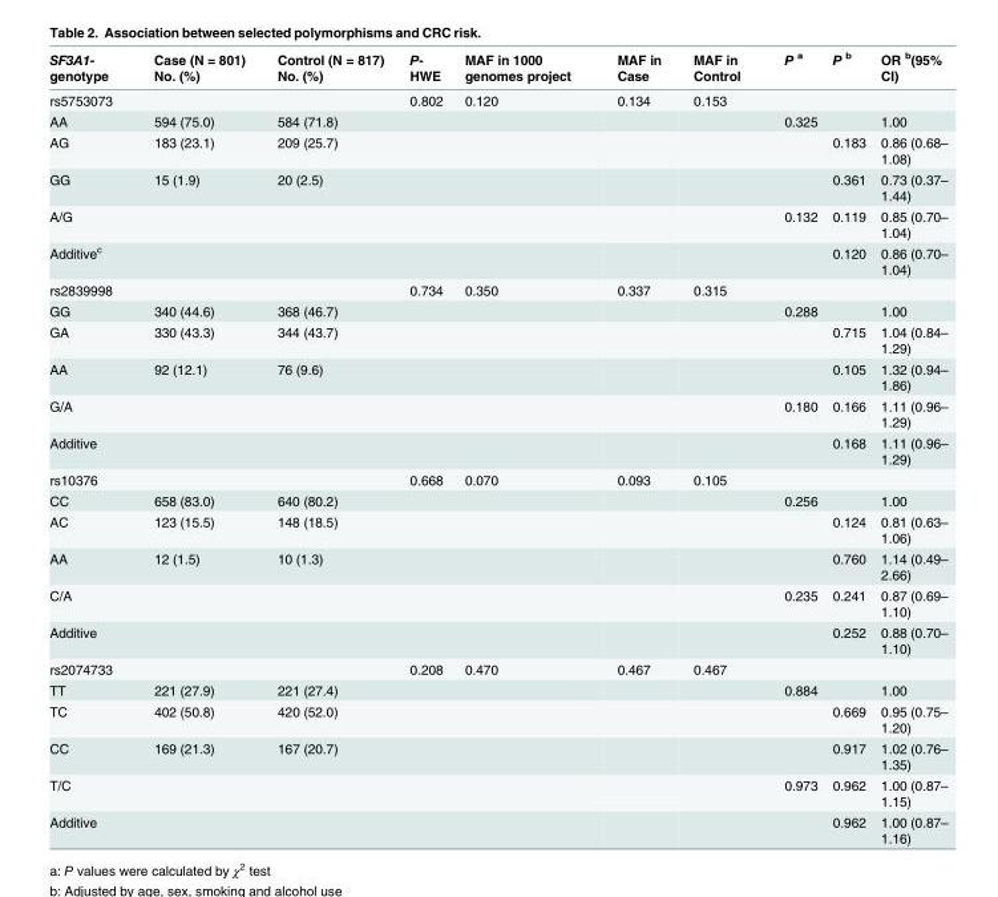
<table><thead><tr><td>SF3A1- genotype</td><td>Case (N = 801) No. (%)</td><td>Control (N = 817) No. (%)</td><td>P- HWE</td><td>MAF in 1000 genomes project</td><td>MAF in Case</td><td>MAF in Control</td><td>P <sup>a</sup></td><td>P <sup>b</sup></td><td>OR <sup>b</sup>(95% CI)</td></tr></thead><tbody><tr><td>rs5753073</td><td></td><td></td><td>0.802</td><td>0.120</td><td>0.134</td><td>0.153</td><td></td><td></td><td></td></tr><tr><td>AA</td><td>594 (75.0)</td><td>584 (71.8)</td><td></td><td></td><td></td><td></td><td>0.325</td><td></td><td>1.00</td></tr><tr><td>AG</td><td>183 (23.1)</td><td>209 (25.7)</td><td></td><td></td><td></td><td></td><td></td><td>0.183</td><td>0.86 (0.68– 1.08)</td></tr><tr><td>GG</td><td>15 (1.9)</td><td>20 (2.5)</td><td></td><td></td><td></td><td></td><td></td><td>0.361</td><td>0.73 (0.37– 1.44)</td></tr><tr><td>A/G</td><td></td><td></td><td></td><td></td><td></td><td></td><td>0.132</td><td>0.119</td><td>0.85 (0.70– 1.04)</td></tr><tr><td>Additive<sup>c</sup></td><td></td><td></td><td></td><td></td><td></td><td></td><td></td><td>0.120</td><td>0.86 (0.70– 1.04)</td></tr><tr><td>rs2839998</td><td></td><td></td><td>0.734</td><td>0.350</td><td>0.337</td><td>0.315</td><td></td><td></td><td></td></tr><tr><td>GG</td><td>340 (44.6)</td><td>368 (46.7)</td><td></td><td></td><td></td><td></td><td>0.288</td><td></td><td>1.00</td></tr><tr><td>GA</td><td>330 (43.3)</td><td>344 (43.7)</td><td></td><td></td><td></td><td></td><td></td><td>0.715</td><td>1.04 (0.84– 1.29)</td></tr><tr><td>AA</td><td>92 (12.1)</td><td>76 (9.6)</td><td></td><td></td><td></td><td></td><td></td><td>0.105</td><td>1.32 (0.94– 1.86)</td></tr><tr><td>G/A</td><td></td><td></td><td></td><td></td><td></td><td></td><td>0.180</td><td>0.166</td><td>1.11 (0.96– 1.29)</td></tr><tr><td>Additive</td><td></td><td></td><td></td><td></td><td></td><td></td><td></td><td>0.168</td><td>1.11 (0.96– 1.29)</td></tr><tr><td>rs10376</td><td></td><td></td><td>0.668</td><td>0.070</td><td>0.093</td><td>0.105</td><td></td><td></td><td></td></tr><tr><td>CC</td><td>658 (83.0)</td><td>640 (80.2)</td><td></td><td></td><td></td><td></td><td>0.256</td><td></td><td>1.00</td></tr><tr><td>AC</td><td>123 (15.5)</td><td>148 (18.5)</td><td></td><td></td><td></td><td></td><td></td><td>0.124</td><td>0.81 (0.63– 1.06)</td></tr><tr><td>AA</td><td>12 (1.5)</td><td>10 (1.3)</td><td></td><td></td><td></td><td></td><td></td><td>0.760</td><td>1.14 (0.49– 2.66)</td></tr><tr><td>C/A</td><td></td><td></td><td></td><td></td><td></td><td></td><td>0.235</td><td>0.241</td><td>0.87 (0.69– 1.10)</td></tr><tr><td>Additive</td><td></td><td></td><td></td><td></td><td></td><td></td><td></td><td>0.252</td><td>0.88 (0.70– 1.10)</td></tr><tr><td>rs2074733</td><td></td><td></td><td>0.208</td><td>0.470</td><td>0.467</td><td>0.467</td><td></td><td></td><td></td></tr><tr><td>TT</td><td>221 (27.9)</td><td>221 (27.4)</td><td></td><td></td><td></td><td></td><td>0.884</td><td></td><td>1.00</td></tr><tr><td>TC</td><td>402 (50.8)</td><td>420 (52.0)</td><td></td><td></td><td></td><td></td><td></td><td>0.669</td><td>0.95 (0.75– 1.20)</td></tr><tr><td>CC</td><td>169 (21.3)</td><td>167 (20.7)</td><td></td><td></td><td></td><td></td><td></td><td>0.917</td><td>1.02 (0.76– 1.35)</td></tr><tr><td>T/C</td><td></td><td></td><td></td><td></td><td></td><td></td><td>0.973</td><td>0.962</td><td>1.00 (0.87– 1.15)</td></tr><tr><td>Additive</td><td></td><td></td><td></td><td></td><td></td><td></td><td></td><td>0.962</td><td>1.00 (0.87– 1.16)</td></tr></tbody></table>